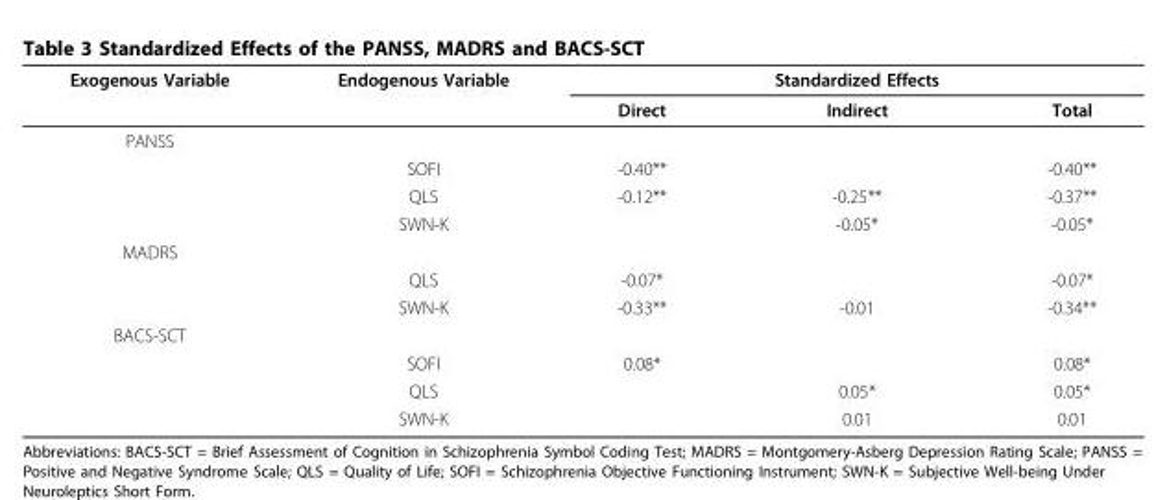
<table><thead><tr><td rowspan="2">Exogenous Variable</td><td rowspan="2">Endogenous Variable</td><td rowspan="2">Direct</td><td rowspan="2">Standardized Effects Indirect</td><td rowspan="2">Total</td></tr><tr></tr></thead><tbody><tr><td colspan="5">PANSS</td></tr><tr><td></td><td>SOFI</td><td>-0.40**</td><td></td><td>-0.40**</td></tr><tr><td></td><td>QLS</td><td>-0.12**</td><td>-0.25**</td><td>-0.37**</td></tr><tr><td></td><td>SWN-K</td><td></td><td>-0.05*</td><td>-0.05*</td></tr><tr><td colspan="5">MADRS</td></tr><tr><td></td><td>QLS</td><td>-0.07*</td><td></td><td>-0.07*</td></tr><tr><td></td><td>SWN-K</td><td>-0.33**</td><td>-0.01</td><td>-0.34**</td></tr><tr><td colspan="5">BACS-SCT</td></tr><tr><td></td><td>SOFI</td><td>0.08*</td><td></td><td>0.08*</td></tr><tr><td></td><td>QLS</td><td></td><td>0.05*</td><td>0.05*</td></tr><tr><td></td><td>SWN-K</td><td></td><td>0.01</td><td>0.01</td></tr></tbody></table>